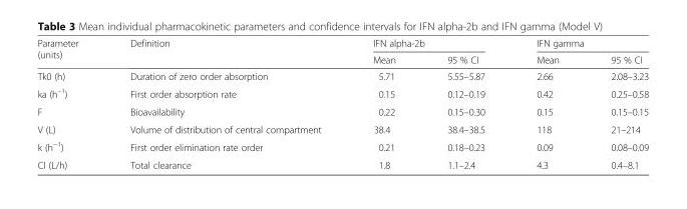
<table><thead><tr><td rowspan="2">Parameter (units)</td><td rowspan="2">Definition</td><td colspan="2">IFN alpha-2b</td><td colspan="2">IFN gamma</td></tr><tr><td>Mean</td><td>95 % CI</td><td>Mean</td><td>95 % CI</td></tr></thead><tbody><tr><td>Tk0 (h)</td><td>Duration of zero order absorption</td><td>5.71</td><td>5.55–5.87</td><td>2.66</td><td>2.08–3.23</td></tr><tr><td>ka (h<sup>–1</sup>)</td><td>First order absorption rate</td><td>0.15</td><td>0.12–0.19</td><td>0.42</td><td>0.25–0.58</td></tr><tr><td>F</td><td>Bioavailability</td><td>0.22</td><td>0.15–0.30</td><td>0.15</td><td>0.15–0.15</td></tr><tr><td>V (L)</td><td>Volume of distribution of central compartment</td><td>38.4</td><td>38.4–38.5</td><td>118</td><td>21–214</td></tr><tr><td>k (h<sup>−1</sup>)</td><td>First order elimination rate order</td><td>0.21</td><td>0.18–0.23</td><td>0.09</td><td>0.08–0.09</td></tr><tr><td>Cl (L/h)</td><td>Total clearance</td><td>1.8</td><td>1.1–2.4</td><td>4.3</td><td>0.4–8.1</td></tr></tbody></table>